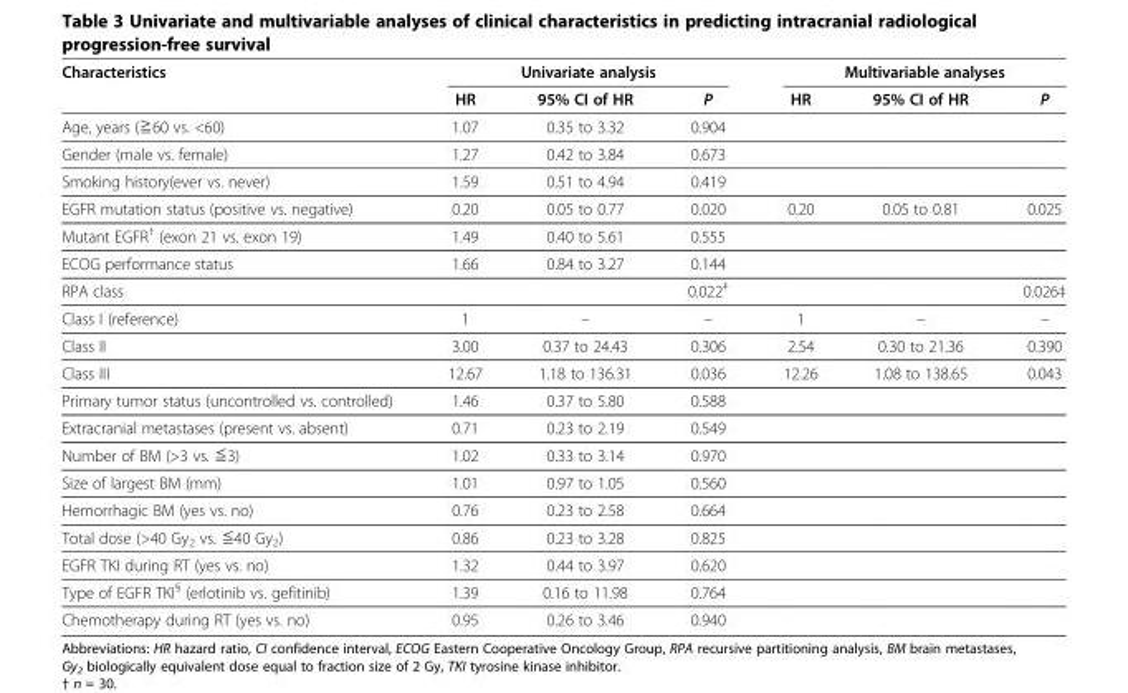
<table><thead><tr><td rowspan="2">Characteristics</td><td colspan="3">Univariate analysis</td><td colspan="3">Multivariable analyses</td></tr><tr><td>HR</td><td>95% CI of HR</td><td>P</td><td>HR</td><td>95% CI of HR</td><td>P</td></tr></thead><tbody><tr><td>Age, years (≧60 vs. &lt;60)</td><td>1.07</td><td>0.35 to 3.32</td><td>0.904</td><td></td><td></td><td></td></tr><tr><td>Gender (male vs. female)</td><td>1.27</td><td>0.42 to 3.84</td><td>0.673</td><td></td><td></td><td></td></tr><tr><td>Smoking history(ever vs. never)</td><td>1.59</td><td>0.51 to 4.94</td><td>0.419</td><td></td><td></td><td></td></tr><tr><td>EGFR mutation status (positive vs. negative)</td><td>0.20</td><td>0.05 to 0.77</td><td>0.020</td><td>0.20</td><td>0.05 to 0.81</td><td>0.025</td></tr><tr><td>Mutant EGFR<sup>†</sup> (exon 21 vs. exon 19)</td><td>1.49</td><td>0.40 to 5.61</td><td>0.555</td><td></td><td></td><td></td></tr><tr><td>ECOG performance status</td><td>1.66</td><td>0.84 to 3.27</td><td>0.144</td><td></td><td></td><td></td></tr><tr><td>RPA class</td><td></td><td></td><td>0.022<sup>‡</sup></td><td></td><td></td><td>0.026‡</td></tr><tr><td>Class I (reference)</td><td>1</td><td>–</td><td>–</td><td>1</td><td>–</td><td>–</td></tr><tr><td>Class II</td><td>3.00</td><td>0.37 to 24.43</td><td>0.306</td><td>2.54</td><td>0.30 to 21.36</td><td>0.390</td></tr><tr><td>Class III</td><td>12.67</td><td>1.18 to 136.31</td><td>0.036</td><td>12.26</td><td>1.08 to 138.65</td><td>0.043</td></tr><tr><td>Primary tumor status (uncontrolled vs. controlled)</td><td>1.46</td><td>0.37 to 5.80</td><td>0.588</td><td></td><td></td><td></td></tr><tr><td>Extracranial metastases (present vs. absent)</td><td>0.71</td><td>0.23 to 2.19</td><td>0.549</td><td></td><td></td><td></td></tr><tr><td>Number of BM (&gt;3 vs. ≦3)</td><td>1.02</td><td>0.33 to 3.14</td><td>0.970</td><td></td><td></td><td></td></tr><tr><td>Size of largest BM (mm)</td><td>1.01</td><td>0.97 to 1.05</td><td>0.560</td><td></td><td></td><td></td></tr><tr><td>Hemorrhagic BM (yes vs. no)</td><td>0.76</td><td>0.23 to 2.58</td><td>0.664</td><td></td><td></td><td></td></tr><tr><td>Total dose (&gt;40 Gy<sub>2</sub> vs. ≦40 Gy<sub>2</sub>)</td><td>0.86</td><td>0.23 to 3.28</td><td>0.825</td><td></td><td></td><td></td></tr><tr><td>EGFR TKI during RT (yes vs. no)</td><td>1.32</td><td>0.44 to 3.97</td><td>0.620</td><td></td><td></td><td></td></tr><tr><td>Type of EGFR TKI<sup>§</sup> (erlotinib vs. gefitinib)</td><td>1.39</td><td>0.16 to 11.98</td><td>0.764</td><td></td><td></td><td></td></tr><tr><td>Chemotherapy during RT (yes vs. no)</td><td>0.95</td><td>0.26 to 3.46</td><td>0.940</td><td></td><td></td><td></td></tr></tbody></table>